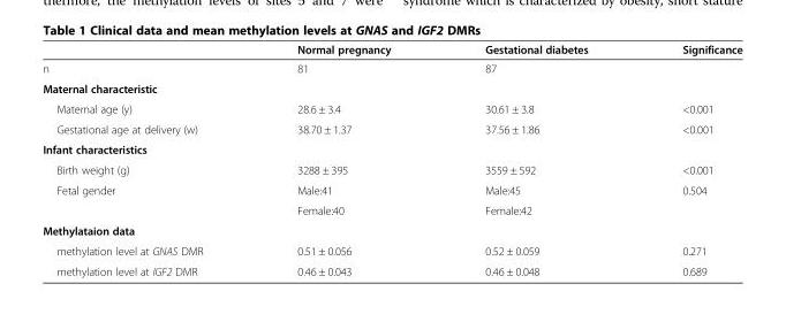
<table><thead><tr><td></td><td>Normal pregnancy</td><td>Gestational diabetes</td><td>Significance</td></tr></thead><tbody><tr><td>n</td><td>81</td><td>87</td><td></td></tr><tr><td colspan="4">Maternal characteristic</td></tr><tr><td>Maternal age (y)</td><td>28.6 ± 3.4</td><td>30.61 ± 3.8</td><td>&lt;0.001</td></tr><tr><td>Gestational age at delivery (w)</td><td>38.70 ± 1.37</td><td>37.56 ± 1.86</td><td>&lt;0.001</td></tr><tr><td colspan="4">Infant characteristics</td></tr><tr><td>Birth weight (g)</td><td>3288 ± 395</td><td>3559 ± 592</td><td>&lt;0.001</td></tr><tr><td rowspan="2">Fetal gender</td><td>Male:41</td><td>Male:45</td><td rowspan="2">0.504</td></tr><tr><td>Female:40</td><td>Female:42</td></tr><tr><td colspan="4">Methylataion data</td></tr><tr><td>methylation level at GNAS DMR</td><td>0.51 ± 0.056</td><td>0.52 ± 0.059</td><td>0.271</td></tr><tr><td>methylation level at IGF2 DMR</td><td>0.46 ± 0.043</td><td>0.46 ± 0.048</td><td>0.689</td></tr></tbody></table>